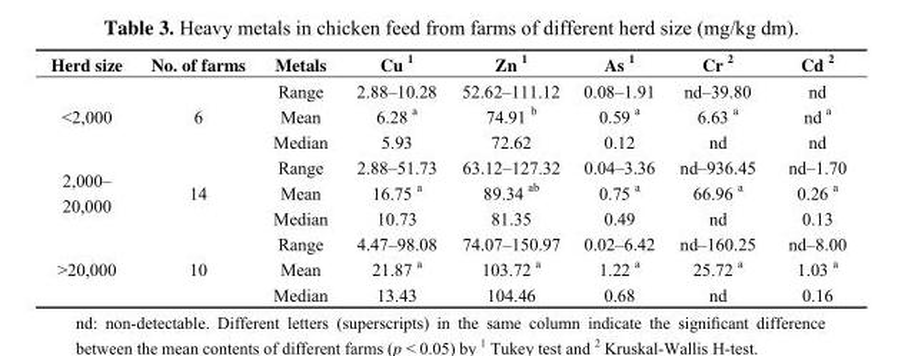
<table><thead><tr><td>Herd size</td><td>No. of farms</td><td>Metals</td><td>Cu <sup>1</sup></td><td>Zn <sup>1</sup></td><td>As <sup>1</sup></td><td>Cr <sup>2</sup></td><td>Cd <sup>2</sup></td></tr></thead><tbody><tr><td rowspan="3">&lt;2,000</td><td rowspan="3">6</td><td>Range</td><td>2.88–10.28</td><td>52.62–111.12</td><td>0.08–1.91</td><td>nd–39.80</td><td>nd</td></tr><tr><td>Mean</td><td>6.28 <sup>a</sup></td><td>74.91 <sup>b</sup></td><td>0.59 <sup>a</sup></td><td>6.63 <sup>a</sup></td><td>nd <sup>a</sup></td></tr><tr><td>Median</td><td>5.93</td><td>72.62</td><td>0.12</td><td>nd</td><td>nd</td></tr><tr><td rowspan="3">2,000– 20,000</td><td rowspan="3">14</td><td>Range</td><td>2.88–51.73</td><td>63.12–127.32</td><td>0.04–3.36</td><td>nd–936.45</td><td>nd–1.70</td></tr><tr><td>Mean</td><td>16.75 <sup>a</sup></td><td>89.34 <sup>ab</sup></td><td>0.75 <sup>a</sup></td><td>66.96 <sup>a</sup></td><td>0.26 <sup>a</sup></td></tr><tr><td>Median</td><td>10.73</td><td>81.35</td><td>0.49</td><td>nd</td><td>0.13</td></tr><tr><td rowspan="3">&gt;20,000</td><td rowspan="3">10</td><td>Range</td><td>4.47–98.08</td><td>74.07–150.97</td><td>0.02–6.42</td><td>nd–160.25</td><td>nd–8.00</td></tr><tr><td>Mean</td><td>21.87 <sup>a</sup></td><td>103.72 <sup>a</sup></td><td>1.22 <sup>a</sup></td><td>25.72 <sup>a</sup></td><td>1.03 <sup>a</sup></td></tr><tr><td>Median</td><td>13.43</td><td>104.46</td><td>0.68</td><td>nd</td><td>0.16</td></tr></tbody></table>